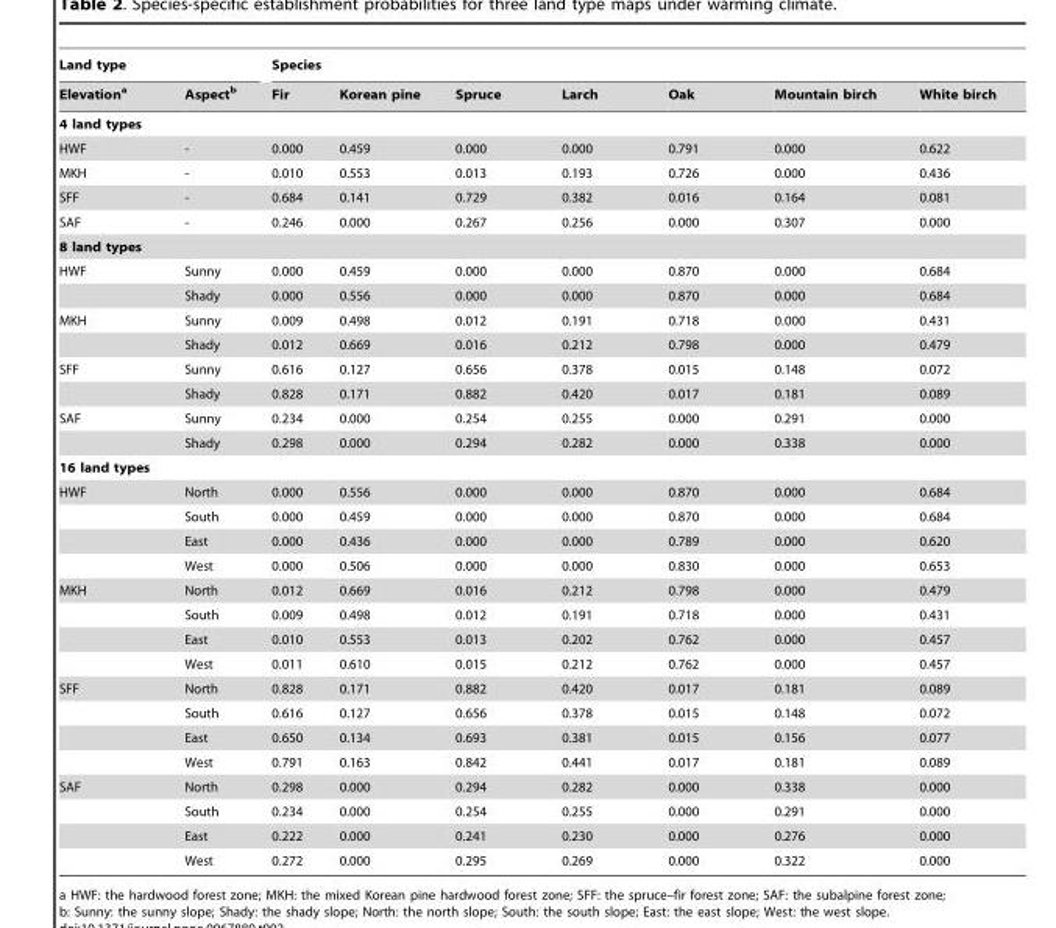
<table><thead><tr><td colspan="2">Land type</td><td colspan="7">Species</td></tr><tr><td>Elevation<sup>a</sup></td><td>Aspect<sup>b</sup></td><td>Fir</td><td>Korean pine</td><td>Spruce</td><td>Larch</td><td>Oak</td><td>Mountain birch</td><td>White birch</td></tr></thead><tbody><tr><td colspan="9">4 land types</td></tr><tr><td>HWF</td><td>-</td><td>0.000</td><td>0.459</td><td>0.000</td><td>0.000</td><td>0.791</td><td>0.000</td><td>0.622</td></tr><tr><td>MKH</td><td>-</td><td>0.010</td><td>0.553</td><td>0.013</td><td>0.193</td><td>0.726</td><td>0.000</td><td>0.436</td></tr><tr><td>SFF</td><td>-</td><td>0.684</td><td>0.141</td><td>0.729</td><td>0.382</td><td>0.016</td><td>0.164</td><td>0.081</td></tr><tr><td>SAF</td><td>-</td><td>0.246</td><td>0.000</td><td>0.267</td><td>0.256</td><td>0.000</td><td>0.307</td><td>0.000</td></tr><tr><td colspan="9">8 land types</td></tr><tr><td rowspan="2">HWF</td><td>Sunny</td><td>0.000</td><td>0.459</td><td>0.000</td><td>0.000</td><td>0.870</td><td>0.000</td><td>0.684</td></tr><tr><td>Shady</td><td>0.000</td><td>0.556</td><td>0.000</td><td>0.000</td><td>0.870</td><td>0.000</td><td>0.684</td></tr><tr><td rowspan="2">MKH</td><td>Sunny</td><td>0.009</td><td>0.498</td><td>0.012</td><td>0.191</td><td>0.718</td><td>0.000</td><td>0.431</td></tr><tr><td>Shady</td><td>0.012</td><td>0.669</td><td>0.016</td><td>0.212</td><td>0.798</td><td>0.000</td><td>0.479</td></tr><tr><td rowspan="2">SFF</td><td>Sunny</td><td>0.616</td><td>0.127</td><td>0.656</td><td>0.378</td><td>0.015</td><td>0.148</td><td>0.072</td></tr><tr><td>Shady</td><td>0.828</td><td>0.171</td><td>0.882</td><td>0.420</td><td>0.017</td><td>0.181</td><td>0.089</td></tr><tr><td rowspan="2">SAF</td><td>Sunny</td><td>0.234</td><td>0.000</td><td>0.254</td><td>0.255</td><td>0.000</td><td>0.291</td><td>0.000</td></tr><tr><td>Shady</td><td>0.298</td><td>0.000</td><td>0.294</td><td>0.282</td><td>0.000</td><td>0.338</td><td>0.000</td></tr><tr><td colspan="9">16 land types</td></tr><tr><td rowspan="4">HWF</td><td>North</td><td>0.000</td><td>0.556</td><td>0.000</td><td>0.000</td><td>0.870</td><td>0.000</td><td>0.684</td></tr><tr><td>South</td><td>0.000</td><td>0.459</td><td>0.000</td><td>0.000</td><td>0.870</td><td>0.000</td><td>0.684</td></tr><tr><td>East</td><td>0.000</td><td>0.436</td><td>0.000</td><td>0.000</td><td>0.789</td><td>0.000</td><td>0.620</td></tr><tr><td>West</td><td>0.000</td><td>0.506</td><td>0.000</td><td>0.000</td><td>0.830</td><td>0.000</td><td>0.653</td></tr><tr><td rowspan="4">MKH</td><td>North</td><td>0.012</td><td>0.669</td><td>0.016</td><td>0.212</td><td>0.798</td><td>0.000</td><td>0.479</td></tr><tr><td>South</td><td>0.009</td><td>0.498</td><td>0.012</td><td>0.191</td><td>0.718</td><td>0.000</td><td>0.431</td></tr><tr><td>East</td><td>0.010</td><td>0.553</td><td>0.013</td><td>0.202</td><td>0.762</td><td>0.000</td><td>0.457</td></tr><tr><td>West</td><td>0.011</td><td>0.610</td><td>0.015</td><td>0.212</td><td>0.762</td><td>0.000</td><td>0.457</td></tr><tr><td rowspan="4">SFF</td><td>North</td><td>0.828</td><td>0.171</td><td>0.882</td><td>0.420</td><td>0.017</td><td>0.181</td><td>0.089</td></tr><tr><td>South</td><td>0.616</td><td>0.127</td><td>0.656</td><td>0.378</td><td>0.015</td><td>0.148</td><td>0.072</td></tr><tr><td>East</td><td>0.650</td><td>0.134</td><td>0.693</td><td>0.381</td><td>0.015</td><td>0.156</td><td>0.077</td></tr><tr><td>West</td><td>0.791</td><td>0.163</td><td>0.842</td><td>0.441</td><td>0.017</td><td>0.181</td><td>0.089</td></tr><tr><td rowspan="4">SAF</td><td>North</td><td>0.298</td><td>0.000</td><td>0.294</td><td>0.282</td><td>0.000</td><td>0.338</td><td>0.000</td></tr><tr><td>South</td><td>0.234</td><td>0.000</td><td>0.254</td><td>0.255</td><td>0.000</td><td>0.291</td><td>0.000</td></tr><tr><td>East</td><td>0.222</td><td>0.000</td><td>0.241</td><td>0.230</td><td>0.000</td><td>0.276</td><td>0.000</td></tr><tr><td>West</td><td>0.272</td><td>0.000</td><td>0.295</td><td>0.269</td><td>0.000</td><td>0.322</td><td>0.000</td></tr></tbody></table>